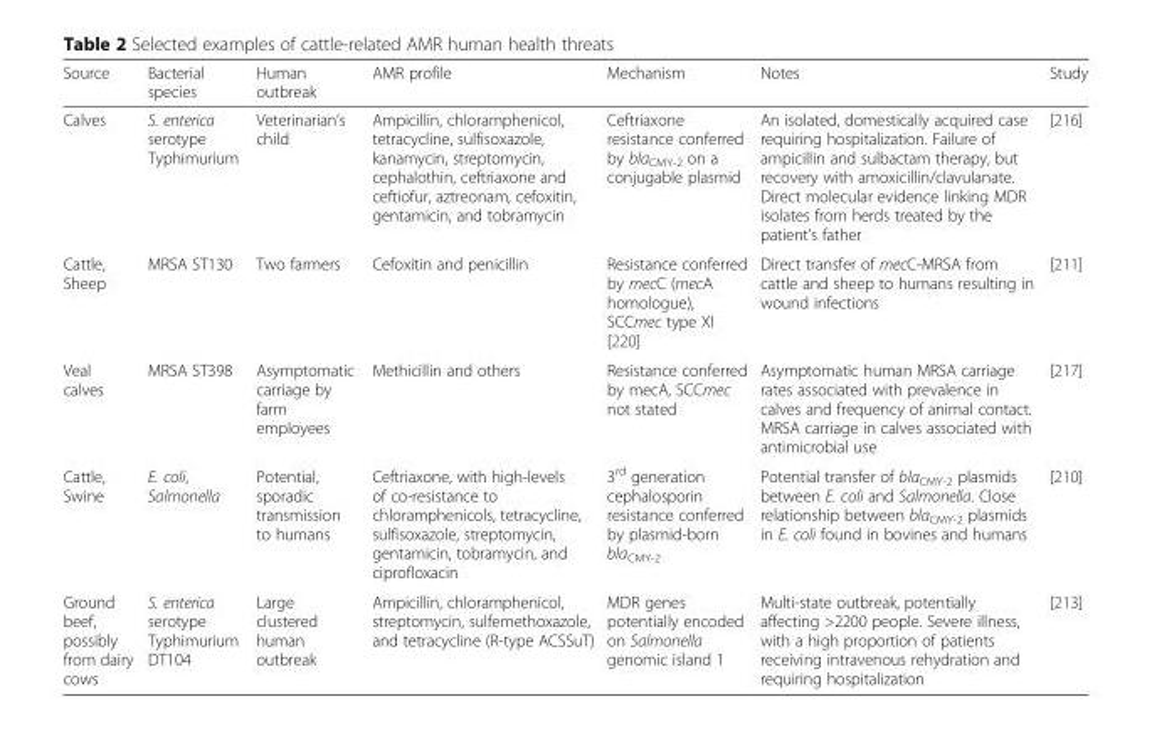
<table><thead><tr><td>Source</td><td>Bacterial species</td><td>Human outbreak</td><td>AMR profile</td><td>Mechanism</td><td>Notes</td><td>Study</td></tr></thead><tbody><tr><td>Calves</td><td>S. enterica serotype Typhimurium</td><td>Veterinarian’s child</td><td>Ampicillin, chloramphenicol, tetracycline, sulfisoxazole, kanamycin, streptomycin, cephalothin, ceftriaxone and ceftiofur, aztreonam, cefoxitin, gentamicin, and tobramycin</td><td>Ceftriaxone resistance conferred by bla<sub>CMY-2</sub> on a conjugable plasmid</td><td>An isolated, domestically acquired case requiring hospitalization. Failure of ampicillin and sulbactam therapy, but recovery with amoxicillin/clavulanate. Direct molecular evidence linking MDR isolates from herds treated by the patient’s father</td><td>[216]</td></tr><tr><td>Cattle, Sheep</td><td>MRSA ST130</td><td>Two farmers</td><td>Cefoxitin and penicillin</td><td>Resistance conferred by mecC (mecA homologue), SCCmec type XI [220]</td><td>Direct transfer of mecC-MRSA from cattle and sheep to humans resulting in wound infections</td><td>[211]</td></tr><tr><td>Veal calves</td><td>MRSA ST398</td><td>Asymptomatic carriage by farm employees</td><td>Methicillin and others</td><td>Resistance conferred by mecA, SCCmec not stated</td><td>Asymptomatic human MRSA carriage rates associated with prevalence in calves and frequency of animal contact. MRSA carriage in calves associated with antimicrobial use</td><td>[217]</td></tr><tr><td>Cattle, Swine</td><td>E. coli, Salmonella</td><td>Potential, sporadic transmission to humans</td><td>Ceftriaxone, with high-levels of co-resistance to chloramphenicols, tetracycline, sulfisoxazole, streptomycin, gentamicin, tobramycin, and ciprofloxacin</td><td>3<sup>rd</sup> generation cephalosporin resistance conferred by plasmid-born bla<sub>CMY-2</sub></td><td>Potential transfer of bla<sub>CMY-2</sub> plasmids between E. coli and Salmonella. Close relationship between bla<sub>CMY-2</sub> plasmids in E. coli found in bovines and humans</td><td>[210]</td></tr><tr><td>Ground beef, possibly from dairy cows</td><td>S. enterica serotype Typhimurium DT104</td><td>Large clustered human outbreak</td><td>Ampicillin, chloramphenicol, streptomycin, sulfemethoxazole, and tetracycline (R-type ACSSuT)</td><td>MDR genes potentially encoded on Salmonella genomic island 1</td><td>Multi-state outbreak, potentially affecting &gt;2200 people. Severe illness, with a high proportion of patients receiving intravenous rehydration and requiring hospitalization</td><td>[213]</td></tr></tbody></table>